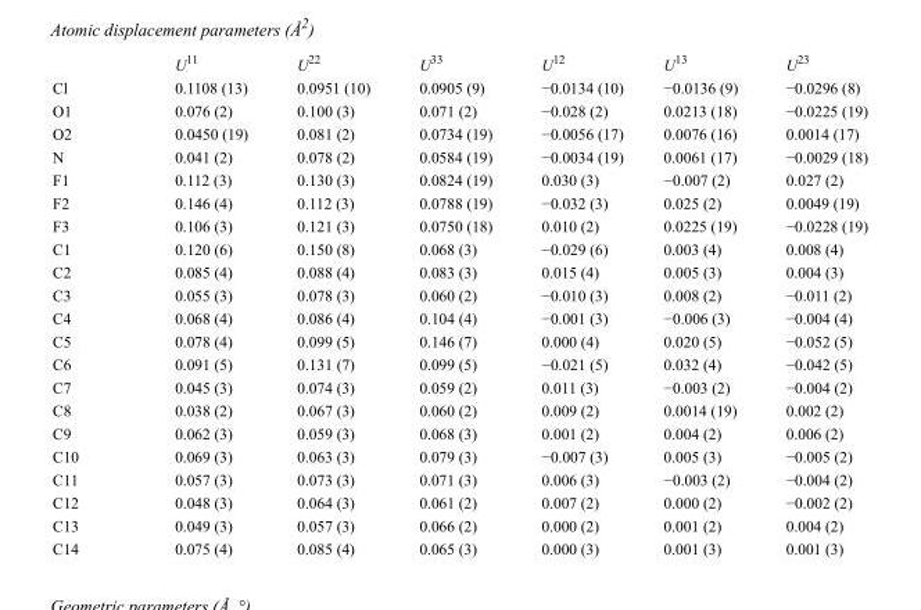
<table><thead><tr><td></td><td>U<sup>11</sup></td><td>U<sup>22</sup></td><td>U<sup>33</sup></td><td>U<sup>12</sup></td><td>U<sup>13</sup></td><td>U<sup>23</sup></td></tr></thead><tbody><tr><td>Cl</td><td>0.1108 (13)</td><td>0.0951 (10)</td><td>0.0905 (9)</td><td>−0.0134 (10)</td><td>−0.0136 (9)</td><td>−0.0296 (8)</td></tr><tr><td>O1</td><td>0.076 (2)</td><td>0.100 (3)</td><td>0.071 (2)</td><td>−0.028 (2)</td><td>0.0213 (18)</td><td>−0.0225 (19)</td></tr><tr><td>O2</td><td>0.0450 (19)</td><td>0.081 (2)</td><td>0.0734 (19)</td><td>−0.0056 (17)</td><td>0.0076 (16)</td><td>0.0014 (17)</td></tr><tr><td>N</td><td>0.041 (2)</td><td>0.078 (2)</td><td>0.0584 (19)</td><td>−0.0034 (19)</td><td>0.0061 (17)</td><td>−0.0029 (18)</td></tr><tr><td>F1</td><td>0.112 (3)</td><td>0.130 (3)</td><td>0.0824 (19)</td><td>0.030 (3)</td><td>−0.007 (2)</td><td>0.027 (2)</td></tr><tr><td>F2</td><td>0.146 (4)</td><td>0.112 (3)</td><td>0.0788 (19)</td><td>−0.032 (3)</td><td>0.025 (2)</td><td>0.0049 (19)</td></tr><tr><td>F3</td><td>0.106 (3)</td><td>0.121 (3)</td><td>0.0750 (18)</td><td>0.010 (2)</td><td>0.0225 (19)</td><td>−0.0228 (19)</td></tr><tr><td>C1</td><td>0.120 (6)</td><td>0.150 (8)</td><td>0.068 (3)</td><td>−0.029 (6)</td><td>0.003 (4)</td><td>0.008 (4)</td></tr><tr><td>C2</td><td>0.085 (4)</td><td>0.088 (4)</td><td>0.083 (3)</td><td>0.015 (4)</td><td>0.005 (3)</td><td>0.004 (3)</td></tr><tr><td>C3</td><td>0.055 (3)</td><td>0.078 (3)</td><td>0.060 (2)</td><td>−0.010 (3)</td><td>0.008 (2)</td><td>−0.011 (2)</td></tr><tr><td>C4</td><td>0.068 (4)</td><td>0.086 (4)</td><td>0.104 (4)</td><td>−0.001 (3)</td><td>−0.006 (3)</td><td>−0.004 (4)</td></tr><tr><td>C5</td><td>0.078 (4)</td><td>0.099 (5)</td><td>0.146 (7)</td><td>0.000 (4)</td><td>0.020 (5)</td><td>−0.052 (5)</td></tr><tr><td>C6</td><td>0.091 (5)</td><td>0.131 (7)</td><td>0.099 (5)</td><td>−0.021 (5)</td><td>0.032 (4)</td><td>−0.042 (5)</td></tr><tr><td>C7</td><td>0.045 (3)</td><td>0.074 (3)</td><td>0.059 (2)</td><td>0.011 (3)</td><td>−0.003 (2)</td><td>−0.004 (2)</td></tr><tr><td>C8</td><td>0.038 (2)</td><td>0.067 (3)</td><td>0.060 (2)</td><td>0.009 (2)</td><td>0.0014 (19)</td><td>0.002 (2)</td></tr><tr><td>C9</td><td>0.062 (3)</td><td>0.059 (3)</td><td>0.068 (3)</td><td>0.001 (2)</td><td>0.004 (2)</td><td>0.006 (2)</td></tr><tr><td>C10</td><td>0.069 (3)</td><td>0.063 (3)</td><td>0.079 (3)</td><td>−0.007 (3)</td><td>0.005 (3)</td><td>−0.005 (2)</td></tr><tr><td>C11</td><td>0.057 (3)</td><td>0.073 (3)</td><td>0.071 (3)</td><td>0.006 (3)</td><td>−0.003 (2)</td><td>−0.004 (2)</td></tr><tr><td>C12</td><td>0.048 (3)</td><td>0.064 (3)</td><td>0.061 (2)</td><td>0.007 (2)</td><td>0.000 (2)</td><td>−0.002 (2)</td></tr><tr><td>C13</td><td>0.049 (3)</td><td>0.057 (3)</td><td>0.066 (2)</td><td>0.000 (2)</td><td>0.001 (2)</td><td>0.004 (2)</td></tr><tr><td>C14</td><td>0.075 (4)</td><td>0.085 (4)</td><td>0.065 (3)</td><td>0.000 (3)</td><td>0.001 (3)</td><td>0.001 (3)</td></tr></tbody></table>